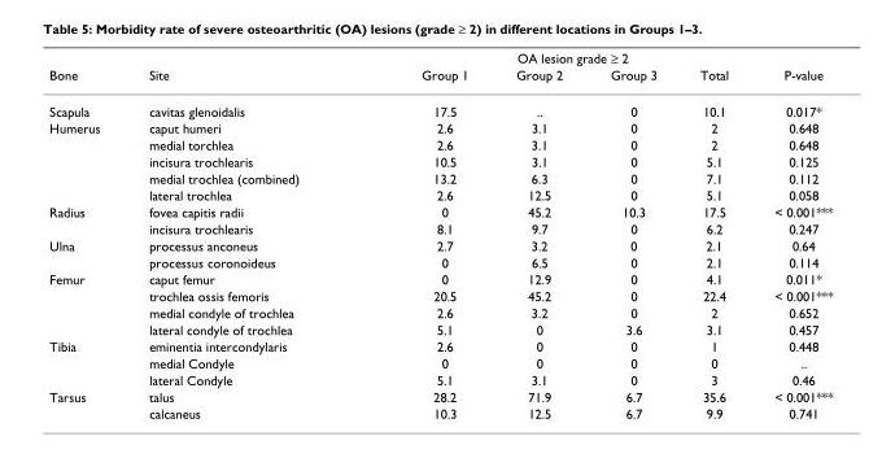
<table><thead><tr><td rowspan="2">Bone</td><td rowspan="2">Site</td><td colspan="4">OA lesion grade ≥ 2</td><td rowspan="2">P-value</td></tr><tr><td>Group 1</td><td>Group 2</td><td>Group 3</td><td>Total</td></tr></thead><tbody><tr><td>Scapula</td><td>cavitas glenoidalis</td><td>17.5</td><td>..</td><td>0</td><td>10.1</td><td>0.017*</td></tr><tr><td rowspan="5">Humerus</td><td>caput humeri</td><td>2.6</td><td>3.1</td><td>0</td><td>2</td><td>0.648</td></tr><tr><td>medial torchlea</td><td>2.6</td><td>3.1</td><td>0</td><td>2</td><td>0.648</td></tr><tr><td>incisura trochlearis</td><td>10.5</td><td>3.1</td><td>0</td><td>5.1</td><td>0.125</td></tr><tr><td>medial trochlea (combined)</td><td>13.2</td><td>6.3</td><td>0</td><td>7.1</td><td>0.112</td></tr><tr><td>lateral trochlea</td><td>2.6</td><td>12.5</td><td>0</td><td>5.1</td><td>0.058</td></tr><tr><td rowspan="2">Radius</td><td>fovea capitis radii</td><td>0</td><td>45.2</td><td>10.3</td><td>17.5</td><td>&lt; 0.001***</td></tr><tr><td>incisura trochlearis</td><td>8.1</td><td>9.7</td><td>0</td><td>6.2</td><td>0.247</td></tr><tr><td rowspan="2">Ulna</td><td>processus anconeus</td><td>2.7</td><td>3.2</td><td>0</td><td>2.1</td><td>0.64</td></tr><tr><td>processus coronoideus</td><td>0</td><td>6.5</td><td>0</td><td>2.1</td><td>0.114</td></tr><tr><td rowspan="4">Femur</td><td>caput femur</td><td>0</td><td>12.9</td><td>0</td><td>4.1</td><td>0.011*</td></tr><tr><td>trochlea ossis femoris</td><td>20.5</td><td>45.2</td><td>0</td><td>22.4</td><td>&lt; 0.001***</td></tr><tr><td>medial condyle of trochlea</td><td>2.6</td><td>3.2</td><td>0</td><td>2</td><td>0.652</td></tr><tr><td>lateral condyle of trochlea</td><td>5.1</td><td>0</td><td>3.6</td><td>3.1</td><td>0.457</td></tr><tr><td rowspan="3">Tibia</td><td>eminentia intercondylaris</td><td>2.6</td><td>0</td><td>0</td><td>1</td><td>0.448</td></tr><tr><td>medial Condyle</td><td>0</td><td>0</td><td>0</td><td>0</td><td>..</td></tr><tr><td>lateral Condyle</td><td>5.1</td><td>3.1</td><td>0</td><td>3</td><td>0.46</td></tr><tr><td rowspan="2">Tarsus</td><td>talus</td><td>28.2</td><td>71.9</td><td>6.7</td><td>35.6</td><td>&lt; 0.001***</td></tr><tr><td>calcaneus</td><td>10.3</td><td>12.5</td><td>6.7</td><td>9.9</td><td>0.741</td></tr></tbody></table>